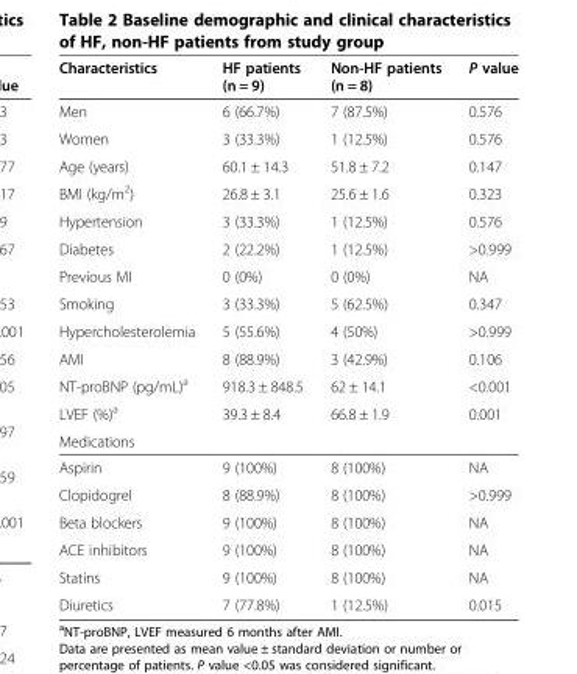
<table><thead><tr><td>Characteristics</td><td>HF patients (n = 9)</td><td>Non-HF patients (n = 8)</td><td>P value</td></tr></thead><tbody><tr><td>Men</td><td>6 (66.7%)</td><td>7 (87.5%)</td><td>0.576</td></tr><tr><td>Women</td><td>3 (33.3%)</td><td>1 (12.5%)</td><td>0.576</td></tr><tr><td>Age (years)</td><td>60.1 ± 14.3</td><td>51.8 ± 7.2</td><td>0.147</td></tr><tr><td>BMI (kg/m<sup>2</sup>)</td><td>26.8 ± 3.1</td><td>25.6 ± 1.6</td><td>0.323</td></tr><tr><td>Hypertension</td><td>3 (33.3%)</td><td>1 (12.5%)</td><td>0.576</td></tr><tr><td>Diabetes</td><td>2 (22.2%)</td><td>1 (12.5%)</td><td>&gt;0.999</td></tr><tr><td>Previous MI</td><td>0 (0%)</td><td>0 (0%)</td><td>NA</td></tr><tr><td>Smoking</td><td>3 (33.3%)</td><td>5 (62.5%)</td><td>0.347</td></tr><tr><td>Hypercholesterolemia</td><td>5 (55.6%)</td><td>4 (50%)</td><td>&gt;0.999</td></tr><tr><td>AMI</td><td>8 (88.9%)</td><td>3 (42.9%)</td><td>0.106</td></tr><tr><td>NT-proBNP (pg/mL)<sup>a</sup></td><td>918.3 ± 848.5</td><td>62 ± 14.1</td><td>&lt;0.001</td></tr><tr><td>LVEF (%)<sup>a</sup></td><td>39.3 ± 8.4</td><td>66.8 ± 1.9</td><td>0.001</td></tr><tr><td colspan="4">Medications</td></tr><tr><td>Aspirin</td><td>9 (100%)</td><td>8 (100%)</td><td>NA</td></tr><tr><td>Clopidogrel</td><td>8 (88.9%)</td><td>8 (100%)</td><td>&gt;0.999</td></tr><tr><td>Beta blockers</td><td>9 (100%)</td><td>8 (100%)</td><td>NA</td></tr><tr><td>ACE inhibitors</td><td>9 (100%)</td><td>8 (100%)</td><td>NA</td></tr><tr><td>Statins</td><td>9 (100%)</td><td>8 (100%)</td><td>NA</td></tr><tr><td>Diuretics</td><td>7 (77.8%)</td><td>1 (12.5%)</td><td>0.015</td></tr></tbody></table>